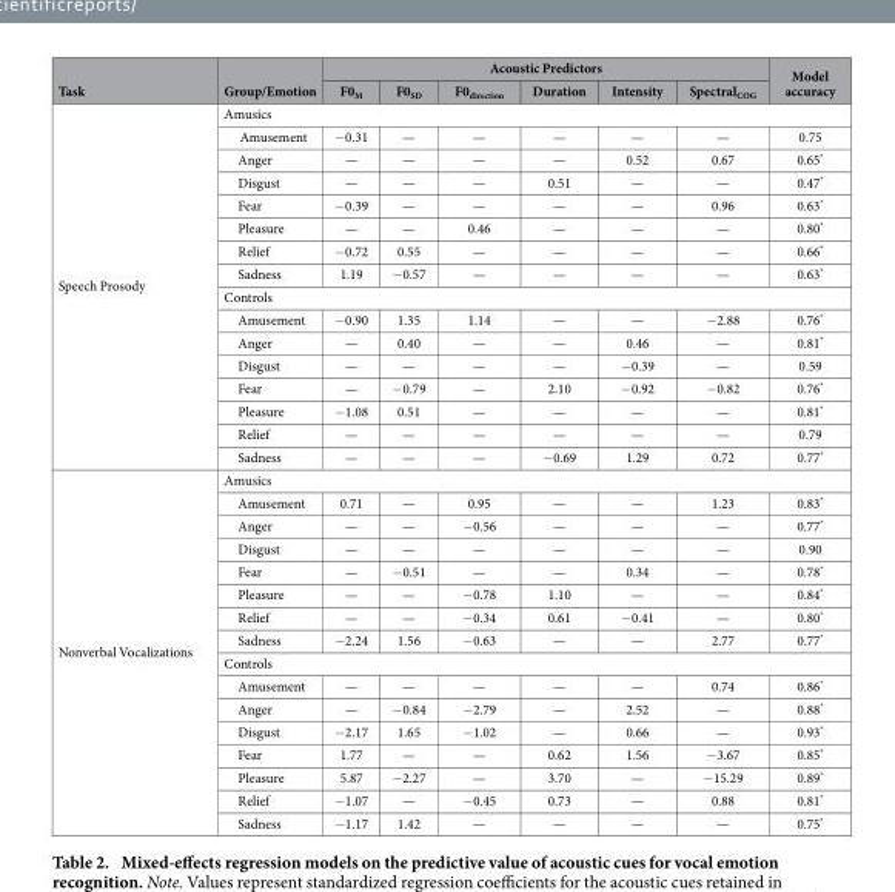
<table><thead><tr><td rowspan="2">Task</td><td rowspan="2">Group/Emotion</td><td colspan="6">Acoustic Predictors</td><td rowspan="2">Model accuracy</td></tr><tr><td>F0<sub>M</sub></td><td>F0<sub>SD</sub></td><td>F0<sub>direction</sub></td><td>Duration</td><td>Intensity</td><td>Spectral<sub>COG</sub></td></tr></thead><tbody><tr><td rowspan="16">Speech Prosody</td><td colspan="8">Amusics</td></tr><tr><td>Amusement</td><td>− 0.31</td><td>—</td><td>—</td><td>—</td><td>—</td><td>—</td><td>0.75</td></tr><tr><td>Anger</td><td>—</td><td>—</td><td>—</td><td>—</td><td>0.52</td><td>0.67</td><td>0.65*</td></tr><tr><td>Disgust</td><td>—</td><td>—</td><td>—</td><td>0.51</td><td>—</td><td>—</td><td>0.47*</td></tr><tr><td>Fear</td><td>− 0.39</td><td>—</td><td>—</td><td>—</td><td>—</td><td>0.96</td><td>0.63*</td></tr><tr><td>Pleasure</td><td>—</td><td>—</td><td>0.46</td><td>—</td><td>—</td><td>—</td><td>0.80*</td></tr><tr><td>Relief</td><td>− 0.72</td><td>0.55</td><td>—</td><td>—</td><td>—</td><td>—</td><td>0.66*</td></tr><tr><td>Sadness</td><td>1.19</td><td>− 0.57</td><td>—</td><td>—</td><td>—</td><td>—</td><td>0.63*</td></tr><tr><td colspan="8">Controls</td></tr><tr><td>Amusement</td><td>− 0.90</td><td>1.35</td><td>1.14</td><td>—</td><td>—</td><td>− 2.88</td><td>0.76*</td></tr><tr><td>Anger</td><td>—</td><td>0.40</td><td>—</td><td>—</td><td>0.46</td><td>—</td><td>0.81*</td></tr><tr><td>Disgust</td><td>—</td><td>—</td><td>—</td><td>—</td><td>− 0.39</td><td>—</td><td>0.59</td></tr><tr><td>Fear</td><td>—</td><td>− 0.79</td><td>—</td><td>2.10</td><td>− 0.92</td><td>− 0.82</td><td>0.76*</td></tr><tr><td>Pleasure</td><td>− 1.08</td><td>0.51</td><td>—</td><td>—</td><td>—</td><td>—</td><td>0.81*</td></tr><tr><td>Relief</td><td>—</td><td>—</td><td>—</td><td>—</td><td>—</td><td>—</td><td>0.79</td></tr><tr><td>Sadness</td><td>—</td><td>—</td><td>—</td><td>− 0.69</td><td>1.29</td><td>0.72</td><td>0.77*</td></tr><tr><td rowspan="16">Nonverbal Vocalizations</td><td colspan="8">Amusics</td></tr><tr><td>Amusement</td><td>0.71</td><td>—</td><td>0.95</td><td>—</td><td>—</td><td>1.23</td><td>0.83*</td></tr><tr><td>Anger</td><td>—</td><td>—</td><td>− 0.56</td><td>—</td><td>—</td><td>—</td><td>0.77*</td></tr><tr><td>Disgust</td><td>—</td><td>—</td><td>—</td><td>—</td><td>—</td><td>—</td><td>0.90</td></tr><tr><td>Fear</td><td>—</td><td>− 0.51</td><td>—</td><td>—</td><td>0.34</td><td>—</td><td>0.78*</td></tr><tr><td>Pleasure</td><td>—</td><td>—</td><td>− 0.78</td><td>1.10</td><td>—</td><td>—</td><td>0.84*</td></tr><tr><td>Relief</td><td>—</td><td>—</td><td>− 0.34</td><td>0.61</td><td>− 0.41</td><td>—</td><td>0.80*</td></tr><tr><td>Sadness</td><td>− 2.24</td><td>1.56</td><td>− 0.63</td><td>—</td><td>—</td><td>2.77</td><td>0.77*</td></tr><tr><td colspan="8">Controls</td></tr><tr><td>Amusement</td><td>—</td><td>—</td><td>—</td><td>—</td><td>—</td><td>0.74</td><td>0.86*</td></tr><tr><td>Anger</td><td>—</td><td>− 0.84</td><td>− 2.79</td><td>—</td><td>2.52</td><td>—</td><td>0.88*</td></tr><tr><td>Disgust</td><td>− 2.17</td><td>1.65</td><td>− 1.02</td><td>—</td><td>0.66</td><td>—</td><td>0.93*</td></tr><tr><td>Fear</td><td>1.77</td><td>—</td><td>—</td><td>0.62</td><td>1.56</td><td>− 3.67</td><td>0.85*</td></tr><tr><td>Pleasure</td><td>5.87</td><td>− 2.27</td><td>—</td><td>3.70</td><td>—</td><td>− 15.29</td><td>0.89*</td></tr><tr><td>Relief</td><td>− 1.07</td><td>—</td><td>− 0.45</td><td>0.73</td><td>—</td><td>0.88</td><td>0.81*</td></tr><tr><td>Sadness</td><td>− 1.17</td><td>1.42</td><td>—</td><td>—</td><td>—</td><td>—</td><td>0.75*</td></tr></tbody></table>